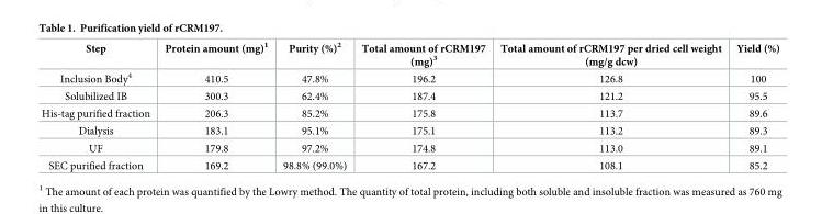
<table><thead><tr><td>Step</td><td>Protein amount (mg)<sup>1</sup></td><td>Purity (%)<sup>2</sup></td><td>Total amount of rCRM197 (mg)<sup>3</sup></td><td>Total amount of rCRM197 per dried cell weight (mg/g dcw)</td><td>Yield (%)</td></tr></thead><tbody><tr><td>Inclusion Body<sup>4</sup></td><td>410.5</td><td>47.8%</td><td>196.2</td><td>126.8</td><td>100</td></tr><tr><td>Solubilized IB</td><td>300.3</td><td>62.4%</td><td>187.4</td><td>121.2</td><td>95.5</td></tr><tr><td>His-tag purified fraction</td><td>206.3</td><td>85.2%</td><td>175.8</td><td>113.7</td><td>89.6</td></tr><tr><td>Dialysis</td><td>183.1</td><td>95.1%</td><td>175.1</td><td>113.2</td><td>89.3</td></tr><tr><td>UF</td><td>179.8</td><td>97.2%</td><td>174.8</td><td>113.0</td><td>89.1</td></tr><tr><td>SEC purified fraction</td><td>169.2</td><td>98.8% (99.0%)</td><td>167.2</td><td>108.1</td><td>85.2</td></tr></tbody></table>